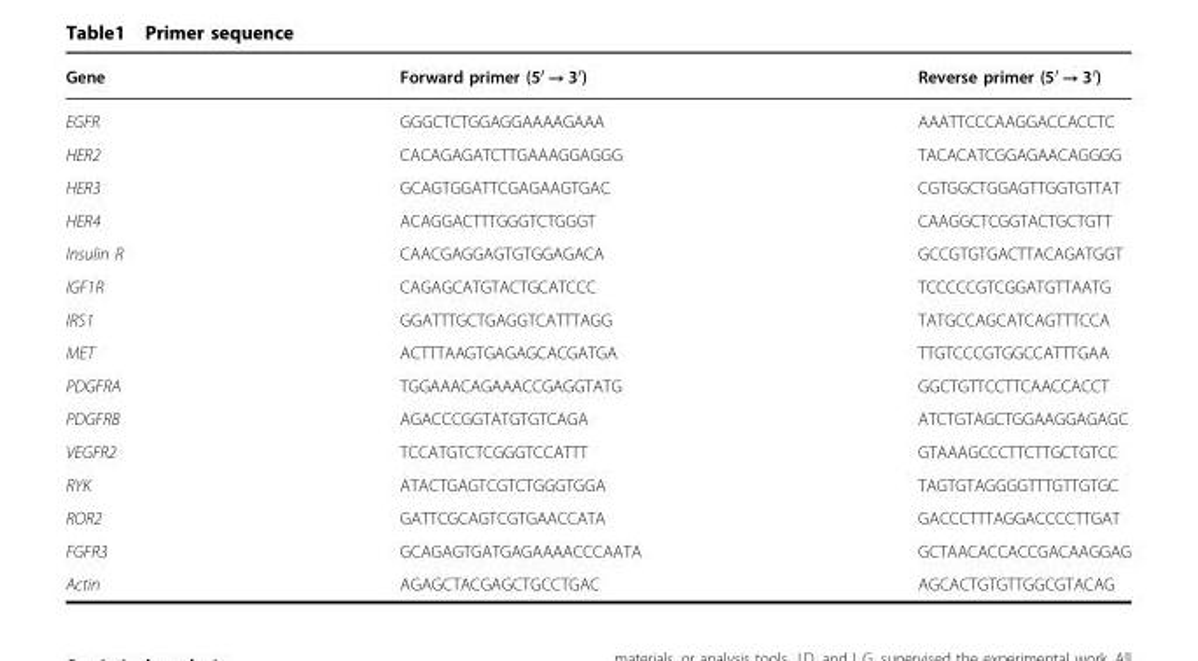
<table><thead><tr><td>Gene</td><td>Forward primer (5′ → 3′)</td><td>Reverse primer (5′ → 3′)</td></tr></thead><tbody><tr><td>EGFR</td><td>GGGCTCTGGAGGAAAAGAAA</td><td>AAATTCCCAAGGACCACCTC</td></tr><tr><td>HER2</td><td>CACAGAGATCTTGAAAGGAGGG</td><td>TACACATCGGAGAACAGGGG</td></tr><tr><td>HER3</td><td>GCAGTGGATTCGAGAAGTGAC</td><td>CGTGGCTGGAGTTGGTGTTAT</td></tr><tr><td>HER4</td><td>ACAGGACTTTGGGTCTGGGT</td><td>CAAGGCTCGGTACTGCTGTT</td></tr><tr><td>Insulin R</td><td>CAACGAGGAGTGTGGAGACA</td><td>GCCGTGTGACTTACAGATGGT</td></tr><tr><td>IGF1R</td><td>CAGAGCATGTACTGCATCCC</td><td>TCCCCCGTCGGATGTTAATG</td></tr><tr><td>IRS1</td><td>GGATTTGCTGAGGTCATTTAGG</td><td>TATGCCAGCATCAGTTTCCA</td></tr><tr><td>MET</td><td>ACTTTAAGTGAGAGCACGATGA</td><td>TTGTCCCGTGGCCATTTGAA</td></tr><tr><td>PDGFRA</td><td>TGGAAACAGAAACCGAGGTATG</td><td>GGCTGTTCCTTCAACCACCT</td></tr><tr><td>PDGFRB</td><td>AGACCCGGTATGTGTCAGA</td><td>ATCTGTAGCTGGAAGGAGAGC</td></tr><tr><td>VEGFR2</td><td>TCCATGTCTCGGGTCCATTT</td><td>GTAAAGCCCTTCTTGCTGTCC</td></tr><tr><td>RYK</td><td>ATACTGAGTCGTCTGGGTGGA</td><td>TAGTGTAGGGGTTTGTTGTGC</td></tr><tr><td>ROR2</td><td>GATTCGCAGTCGTGAACCATA</td><td>GACCCTTTAGGACCCCTTGAT</td></tr><tr><td>FGFR3</td><td>GCAGAGTGATGAGAAAACCCAATA</td><td>GCTAACACCACCGACAAGGAG</td></tr><tr><td>Actin</td><td>AGAGCTACGAGCTGCCTGAC</td><td>AGCACTGTGTTGGCGTACAG</td></tr></tbody></table>